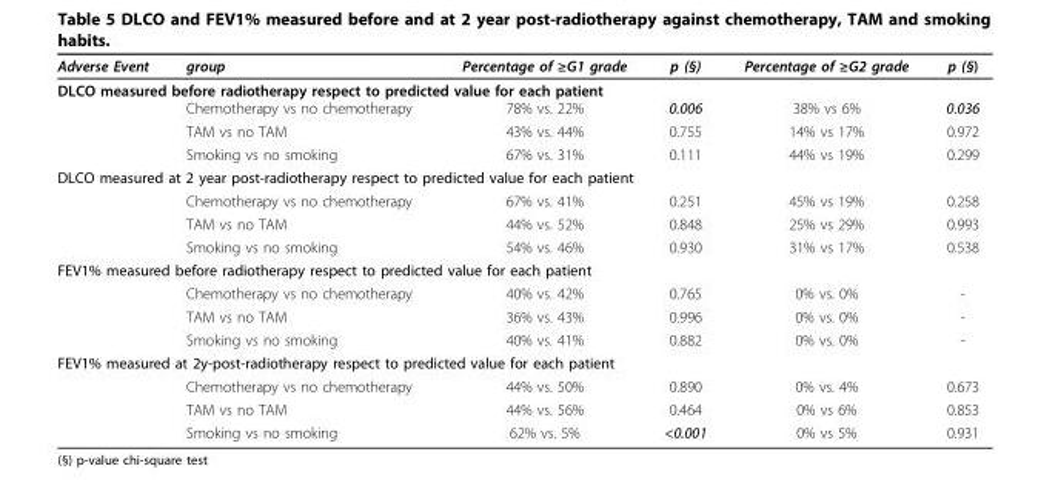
<table><thead><tr><td>Adverse Event</td><td>group</td><td>Percentage of ≥G1 grade</td><td>p (§)</td><td>Percentage of ≥G2 grade</td><td>p (§)</td></tr></thead><tbody><tr><td colspan="6">DLCO measured before radiotherapy respect to predicted value for each patient</td></tr><tr><td></td><td>Chemotherapy vs no chemotherapy</td><td>78% vs. 22%</td><td>0.006</td><td>38% vs 6%</td><td>0.036</td></tr><tr><td></td><td>TAM vs no TAM</td><td>43% vs. 44%</td><td>0.755</td><td>14% vs 17%</td><td>0.972</td></tr><tr><td></td><td>Smoking vs no smoking</td><td>67% vs. 31%</td><td>0.111</td><td>44% vs 19%</td><td>0.299</td></tr><tr><td colspan="6">DLCO measured at 2 year post-radiotherapy respect to predicted value for each patient</td></tr><tr><td></td><td>Chemotherapy vs no chemotherapy</td><td>67% vs. 41%</td><td>0.251</td><td>45% vs 19%</td><td>0.258</td></tr><tr><td></td><td>TAM vs no TAM</td><td>44% vs. 52%</td><td>0.848</td><td>25% vs 29%</td><td>0.993</td></tr><tr><td></td><td>Smoking vs no smoking</td><td>54% vs. 46%</td><td>0.930</td><td>31% vs 17%</td><td>0.538</td></tr><tr><td colspan="6">FEV1% measured before radiotherapy respect to predicted value for each patient</td></tr><tr><td></td><td>Chemotherapy vs no chemotherapy</td><td>40% vs. 42%</td><td>0.765</td><td>0% vs. 0%</td><td>-</td></tr><tr><td></td><td>TAM vs no TAM</td><td>36% vs. 43%</td><td>0.996</td><td>0% vs. 0%</td><td>-</td></tr><tr><td></td><td>Smoking vs no smoking</td><td>40% vs. 41%</td><td>0.882</td><td>0% vs. 0%</td><td>-</td></tr><tr><td colspan="6">FEV1% measured at 2y-post-radiotherapy respect to predicted value for each patient</td></tr><tr><td></td><td>Chemotherapy vs no chemotherapy</td><td>44% vs. 50%</td><td>0.890</td><td>0% vs. 4%</td><td>0.673</td></tr><tr><td></td><td>TAM vs no TAM</td><td>44% vs. 56%</td><td>0.464</td><td>0% vs 6%</td><td>0.853</td></tr><tr><td></td><td>Smoking vs no smoking</td><td>62% vs. 5%</td><td>&lt;0.001</td><td>0% vs 5%</td><td>0.931</td></tr></tbody></table>